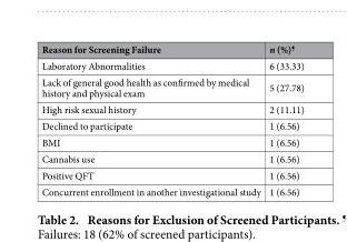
<table><thead><tr><td>Reason for Screening Failure</td><td>n (%)¶</td></tr></thead><tbody><tr><td>Laboratory Abnormalities</td><td>6 (33.33)</td></tr><tr><td>Lack of general good health as confirmed by medical history and physical exam</td><td>5 (27.78)</td></tr><tr><td>High risk sexual history</td><td>2 (11.11)</td></tr><tr><td>Declined to participate</td><td>1 (6.56)</td></tr><tr><td>BMI</td><td>1 (6.56)</td></tr><tr><td>Cannabis use</td><td>1 (6.56)</td></tr><tr><td>Positive QFT</td><td>1 (6.56)</td></tr><tr><td>Concurrent enrollment in another investigational study</td><td>1 (6.56)</td></tr></tbody></table>